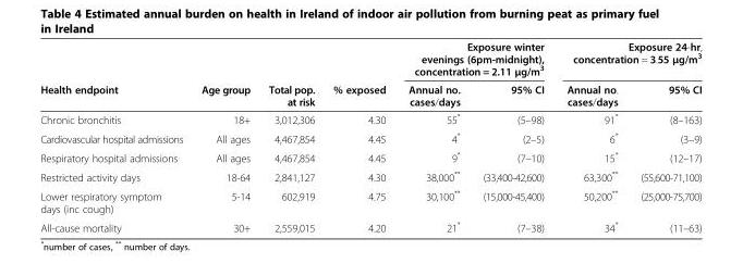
<table><thead><tr><td rowspan="2">Health endpoint</td><td rowspan="2">Age group</td><td rowspan="2">Total pop. at risk</td><td rowspan="2">% exposed</td><td colspan="2">Exposure winter evenings (6pm-midnight), concentration = 2.11 μg/m<sup>3</sup></td><td colspan="2">Exposure 24-hr, concentration = 3.55 μg/m<sup>3</sup></td></tr><tr><td>Annual no. cases/days</td><td>95% CI</td><td>Annual no. cases/days</td><td>95% CI</td></tr></thead><tbody><tr><td>Chronic bronchitis</td><td>18+</td><td>3,012,306</td><td>4.30</td><td>55*</td><td>(5–98)</td><td>91*</td><td>(8–163)</td></tr><tr><td>Cardiovascular hospital admissions</td><td>All ages</td><td>4,467,854</td><td>4.45</td><td>4*</td><td>(2–5)</td><td>6*</td><td>(3–9)</td></tr><tr><td>Respiratory hospital admissions</td><td>All ages</td><td>4,467,854</td><td>4.45</td><td>9*</td><td>(7–10)</td><td>15*</td><td>(12–17)</td></tr><tr><td>Restricted activity days</td><td>18-64</td><td>2,841,127</td><td>4.30</td><td>38,000**</td><td>(33,400-42,600)</td><td>63,300**</td><td>(55,600-71,100)</td></tr><tr><td>Lower respiratory symptom days (inc cough)</td><td>5-14</td><td>602,919</td><td>4.75</td><td>30,100**</td><td>(15,000-45,400)</td><td>50,200**</td><td>(25,000-75,700)</td></tr><tr><td>All-cause mortality</td><td>30+</td><td>2,559,015</td><td>4.20</td><td>21*</td><td>(7–38)</td><td>34*</td><td>(11–63)</td></tr></tbody></table>